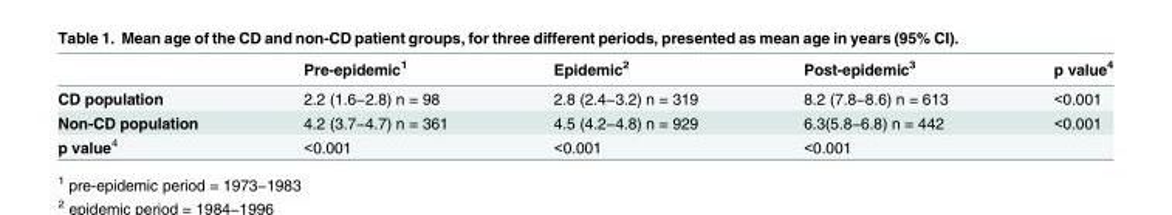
<table><thead><tr><td></td><td>Pre-epidemic<sup>1</sup></td><td>Epidemic<sup>2</sup></td><td>Post-epidemic<sup>3</sup></td><td>p value<sup>4</sup></td></tr></thead><tbody><tr><td>CD population</td><td>2.2 (1.6−2.8) n = 98</td><td>2.8 (2.4−3.2) n = 319</td><td>8.2 (7.8−8.6) n = 613</td><td>&lt;0.001</td></tr><tr><td>Non-CD population</td><td>4.2 (3.7−4.7) n = 361</td><td>4.5 (4.2−4.8) n = 929</td><td>6.3(5.8−6.8) n = 442</td><td>&lt;0.001</td></tr><tr><td>p value<sup>4</sup></td><td>&lt;0.001</td><td>&lt;0.001</td><td>&lt;0.001</td><td></td></tr></tbody></table>